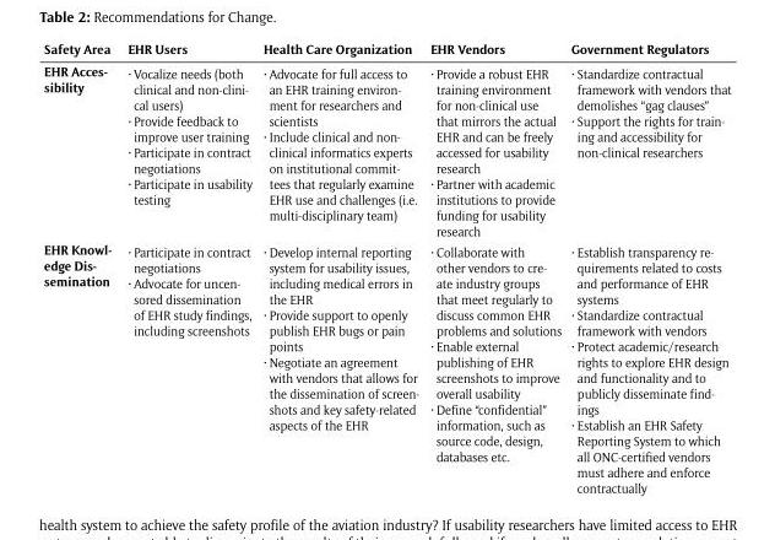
<table><thead><tr><td>Safety Area</td><td>EHR Users</td><td>Health Care Organization</td><td>EHR Vendors</td><td>Government Regulators</td></tr></thead><tbody><tr><td>EHR Acces- sibility</td><td>• Vocalize needs (both clinical and non-clini- cal users) • Provide feedback to improve user training • Participate in contract negotiations • Participate in usability testing</td><td>• Advocate for full access to an EHR training environ- ment for researchers and scientists • Include clinical and non- clinical informatics experts on institutional commit- tees that regularly examine EHR use and challenges (i.e. multi-disciplinary team)</td><td>• Provide a robust EHR training environment for non-clinical use that mirrors the actual EHR and can be freely accessed for usability research • Partner with academic institutions to provide funding for usability research</td><td>• Standardize contractual framework with vendors that demolishes “gag clauses” • Support the rights for train- ing and accessibility for non-clinical researchers</td></tr><tr><td>EHR Knowl- edge Dis- semination</td><td>• Participate in contract negotiations • Advocate for uncen- sored dissemination of EHR study findings, including screenshots</td><td>• Develop internal reporting system for usability issues, including medical errors in the EHR • Provide support to openly publish EHR bugs or pain points • Negotiate an agreement with vendors that allows for the dissemination of screen- shots and key safety-related aspects of the EHR</td><td>• Collaborate with other vendors to cre- ate industry groups that meet regularly to discuss common EHR problems and solutions • Enable external publishing of EHR screenshots to improve overall usability • Define “confidential” information, such as source code, design, databases etc.</td><td>• Establish transparency re- quirements related to costs and performance of EHR systems • Standardize contractual framework with vendors • Protect academic/research rights to explore EHR design and functionality and to publicly disseminate find- ings • Establish an EHR Safety Reporting System to which all ONC-certified vendors must adhere and enforce contractually</td></tr></tbody></table>